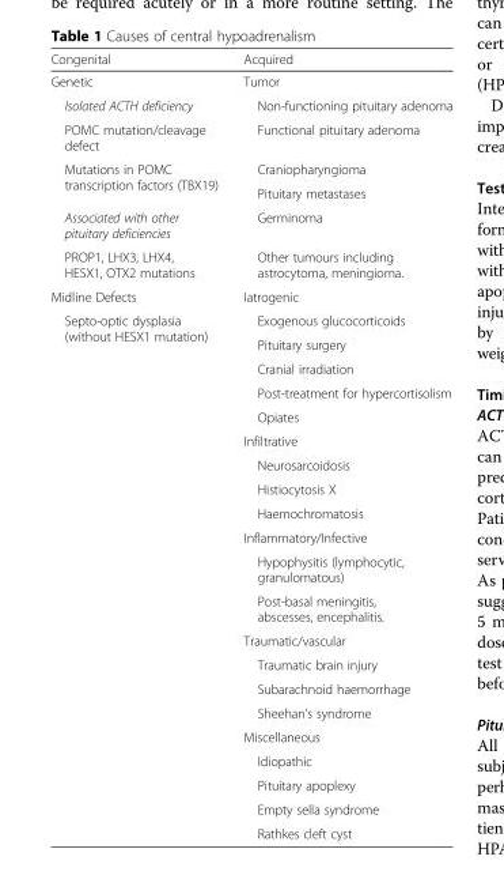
<table><thead><tr><td>Congenital</td><td>Acquired</td></tr></thead><tbody><tr><td>Genetic</td><td>Tumor</td></tr><tr><td>Isolated ACTH deficiency</td><td>Non-functioning pituitary adenoma</td></tr><tr><td>POMC mutation/cleavage defect</td><td>Functional pituitary adenoma</td></tr><tr><td rowspan="2">Mutations in POMC transcription factors (TBX19)</td><td>Craniopharyngioma</td></tr><tr><td>Pituitary metastases</td></tr><tr><td>Associated with other pituitary deficiencies</td><td>Germinoma</td></tr><tr><td>PROP1, LHX3, LHX4, HESX1, OTX2 mutations</td><td>Other tumours including astrocytoma, meningioma.</td></tr><tr><td>Midline Defects</td><td>Iatrogenic</td></tr><tr><td rowspan="21">Septo-optic dysplasia (without HESX1 mutation)</td><td>Exogenous glucocorticoids</td></tr><tr><td>Pituitary surgery</td></tr><tr><td>Cranial irradiation</td></tr><tr><td>Post-treatment for hypercortisolism</td></tr><tr><td>Opiates</td></tr><tr><td>Infiltrative</td></tr><tr><td>Neurosarcoidosis</td></tr><tr><td>Histiocytosis X</td></tr><tr><td>Haemochromatosis</td></tr><tr><td>Inflammatory/Infective</td></tr><tr><td>Hypophysitis (lymphocytic, granulomatous)</td></tr><tr><td>Post-basal meningitis, abscesses, encephalitis.</td></tr><tr><td>Traumatic/vascular</td></tr><tr><td>Traumatic brain injury</td></tr><tr><td>Subarachnoid haemorrhage</td></tr><tr><td>Sheehan’s syndrome</td></tr><tr><td>Miscellaneous</td></tr><tr><td>Idiopathic</td></tr><tr><td>Pituitary apoplexy</td></tr><tr><td>Empty sella syndrome</td></tr><tr><td>Rathkes cleft cyst</td></tr></tbody></table>